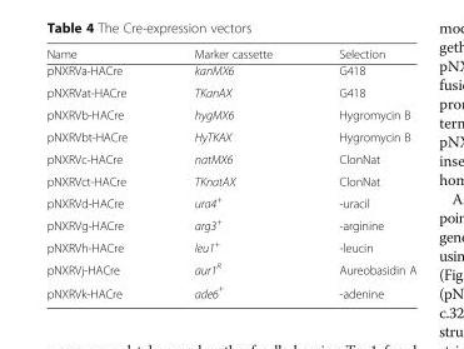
<table><thead><tr><td>Name</td><td>Marker cassette</td><td>Selection</td></tr></thead><tbody><tr><td>pNXRVa-HACre</td><td>kanMX6</td><td>G418</td></tr><tr><td>pNXRVat-HACre</td><td>TKanAX</td><td>G418</td></tr><tr><td>pNXRVb-HACre</td><td>hygMX6</td><td>Hygromycin B</td></tr><tr><td>pNXRVbt-HACre</td><td>HyTKAX</td><td>Hygromycin B</td></tr><tr><td>pNXRVc-HACre</td><td>natMX6</td><td>ClonNat</td></tr><tr><td>pNXRVct-HACre</td><td>TKnatAX</td><td>ClonNat</td></tr><tr><td>pNXRVd-HACre</td><td>ura4<sup>+</sup></td><td>-uracil</td></tr><tr><td>pNXRVg-HACre</td><td>arg3<sup>+</sup></td><td>-arginine</td></tr><tr><td>pNXRVh-HACre</td><td>leu1<sup>+</sup></td><td>-leucin</td></tr><tr><td>pNXRVj-HACre</td><td>aur1<sup>R</sup></td><td>Aureobasidin A</td></tr><tr><td>pNXRVk-HACre</td><td>ade6 <sup>+</sup></td><td>-adenine</td></tr></tbody></table>